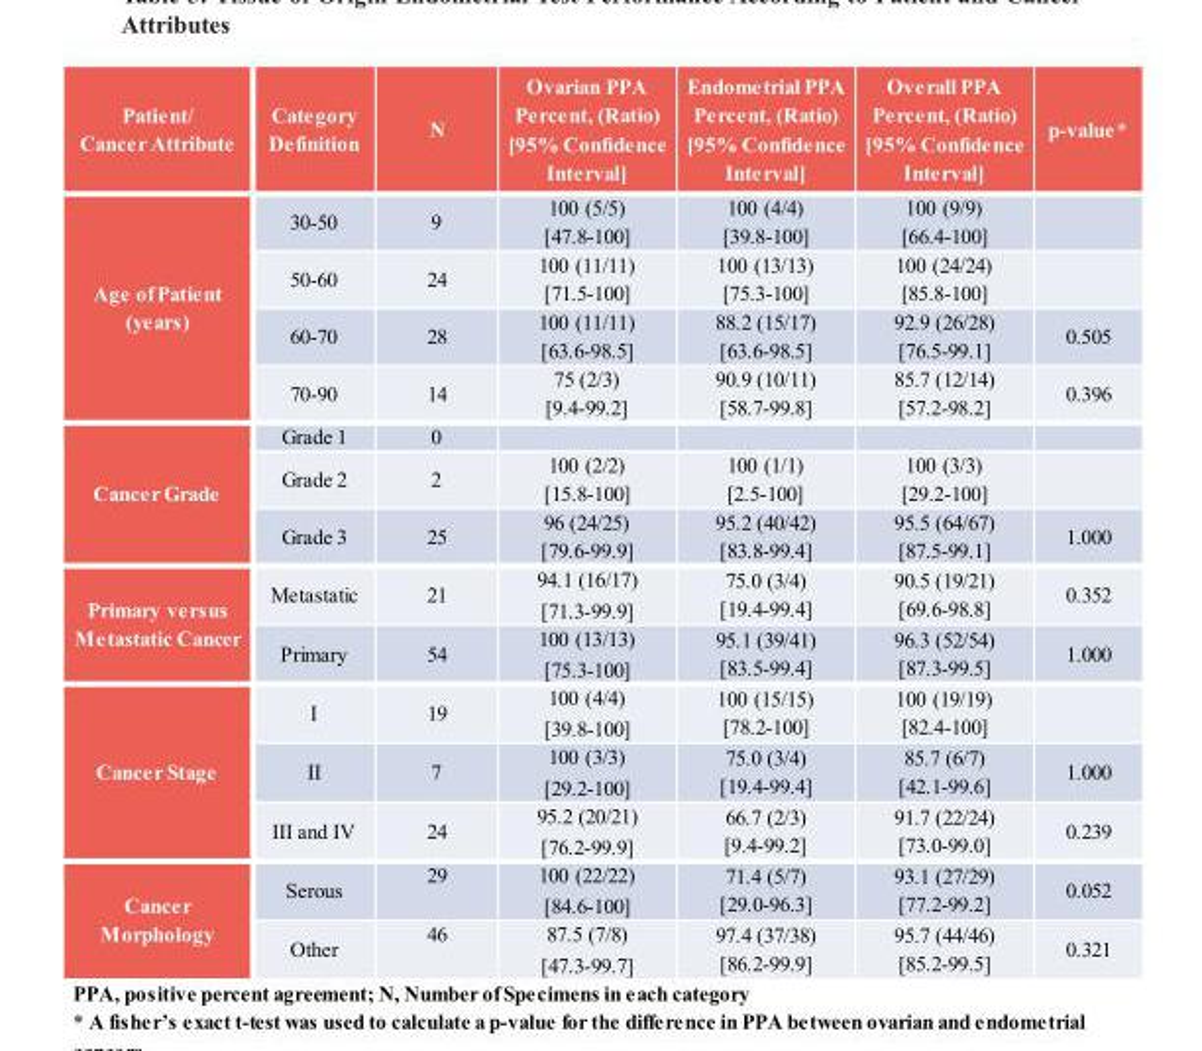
<table><thead><tr><td>Patient/ Cancer Attribute</td><td>Category Definition</td><td>N</td><td>Ovarian PPA Percent, (Ratio) [95% Confidence Interval]</td><td>Endometrial PPA Percent, (Ratio) [95% Confidence Interval]</td><td>Overall PPA Percent, (Ratio) [95% Confidence Interval]</td><td>p-value*</td></tr></thead><tbody><tr><td rowspan="4">Age of Patient (years)</td><td>30-50</td><td>9</td><td>100 (5/5) [47.8-100]</td><td>100 (4/4) [39.8-100]</td><td>100 (9/9) [66.4-100]</td><td></td></tr><tr><td>50-60</td><td>24</td><td>100 (11/11) [71.5-100]</td><td>100 (13/13) [75.3-100]</td><td>100 (24/24) [85.8-100]</td><td></td></tr><tr><td>60-70</td><td>28</td><td>100 (11/11) [63.6-98.5]</td><td>88.2 (15/17) [63.6-98.5]</td><td>92.9 (26/28) [76.5-99.1]</td><td>0.505</td></tr><tr><td>70-90</td><td>14</td><td>75 (2/3) [9.4-99.2]</td><td>90.9 (10/11) [58.7-99.8]</td><td>85.7 (12/14) [57.2-98.2]</td><td>0.396</td></tr><tr><td rowspan="3">Cancer Grade</td><td>Grade 1</td><td>0</td><td></td><td></td><td></td><td></td></tr><tr><td>Grade 2</td><td>2</td><td>100 (2/2) [15.8-100]</td><td>100 (1/1) [2.5-100]</td><td>100 (3/3) [29.2-100]</td><td></td></tr><tr><td>Grade 3</td><td>25</td><td>96 (24/25) [79.6-99.9]</td><td>95.2 (40/42) [83.8-99.4]</td><td>95.5 (64/67) [87.5-99.1]</td><td>1.000</td></tr><tr><td rowspan="2">Primary versus Metastatic Cancer</td><td>Metastatic</td><td>21</td><td>94.1 (16/17) [71.3-99.9]</td><td>75.0 (3/4) [19.4-99.4]</td><td>90.5 (19/21) [69.6-98.8]</td><td>0.352</td></tr><tr><td>Primary</td><td>54</td><td>100 (13/13) [75.3-100]</td><td>95.1 (39/41) [83.5-99.4]</td><td>96.3 (52/54) [87.3-99.5]</td><td>1.000</td></tr><tr><td rowspan="3">Cancer Stage</td><td>I</td><td>19</td><td>100 (4/4) [39.8-100]</td><td>100 (15/15) [78.2-100]</td><td>100 (19/19) [82.4-100]</td><td></td></tr><tr><td>II</td><td>7</td><td>100 (3/3) [29.2-100]</td><td>75.0 (3/4) [19.4-99.4]</td><td>85.7 (6/7) [42.1-99.6]</td><td>1.000</td></tr><tr><td>III and IV</td><td>24</td><td>95.2 (20/21) [76.2-99.9]</td><td>66.7 (2/3) [9.4-99.2]</td><td>91.7 (22/24) [73.0-99.0]</td><td>0.239</td></tr><tr><td rowspan="2">Cancer Morphology</td><td>Serous</td><td>29</td><td>100 (22/22) [84.6-100]</td><td>71.4 (5/7) [29.0-96.3]</td><td>93.1 (27/29) [77.2-99.2]</td><td>0.052</td></tr><tr><td>Other</td><td>46</td><td>87.5 (7/8) [47.3-99.7]</td><td>97.4 (37/38) [86.2-99.9]</td><td>95.7 (44/46) [85.2-99.5]</td><td>0.321</td></tr></tbody></table>